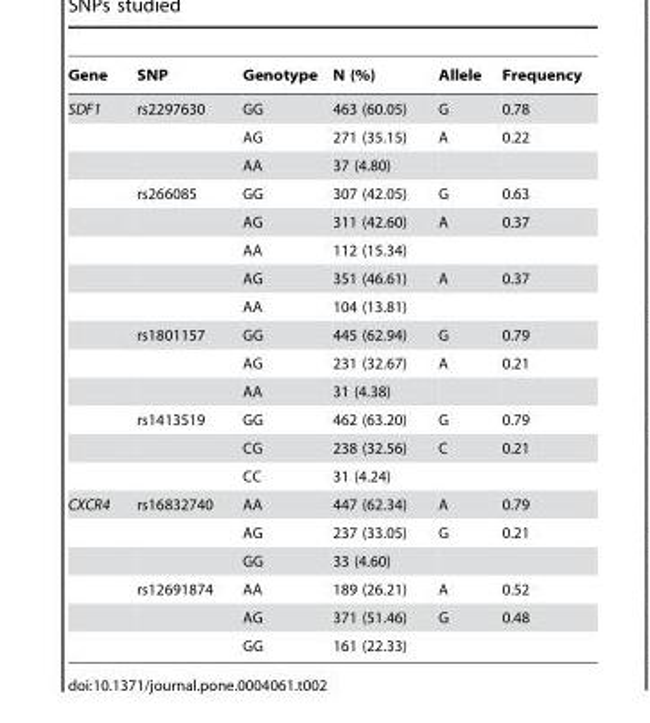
<table><thead><tr><td>Gene</td><td>SNP</td><td>Genotype</td><td>N (%)</td><td>Allele</td><td>Frequency</td></tr></thead><tbody><tr><td rowspan="14">SDF1</td><td>rs2297630</td><td>GG</td><td>463 (60.05)</td><td>G</td><td>0.78</td></tr><tr><td></td><td>AG</td><td>271 (35.15)</td><td>A</td><td>0.22</td></tr><tr><td></td><td>AA</td><td>37 (4.80)</td><td></td><td></td></tr><tr><td>rs266085</td><td>GG</td><td>307 (42.05)</td><td>G</td><td>0.63</td></tr><tr><td></td><td>AG</td><td>311 (42.60)</td><td>A</td><td>0.37</td></tr><tr><td></td><td>AA</td><td>112 (15.34)</td><td></td><td></td></tr><tr><td></td><td>AG</td><td>351 (46.61)</td><td>A</td><td>0.37</td></tr><tr><td></td><td>AA</td><td>104 (13.81)</td><td></td><td></td></tr><tr><td>rs1801157</td><td>GG</td><td>445 (62.94)</td><td>G</td><td>0.79</td></tr><tr><td></td><td>AG</td><td>231 (32.67)</td><td>A</td><td>0.21</td></tr><tr><td></td><td>AA</td><td>31 (4.38)</td><td></td><td></td></tr><tr><td>rs1413519</td><td>GG</td><td>462 (63.20)</td><td>G</td><td>0.79</td></tr><tr><td></td><td>CG</td><td>238 (32.56)</td><td>C</td><td>0.21</td></tr><tr><td></td><td>CC</td><td>31 (4.24)</td><td></td><td></td></tr><tr><td rowspan="6">CXCR4</td><td>rs16832740</td><td>AA</td><td>447 (62.34)</td><td>A</td><td>0.79</td></tr><tr><td></td><td>AG</td><td>237 (33.05)</td><td>G</td><td>0.21</td></tr><tr><td></td><td>GG</td><td>33 (4.60)</td><td></td><td></td></tr><tr><td>rs12691874</td><td>AA</td><td>189 (26.21)</td><td>A</td><td>0.52</td></tr><tr><td></td><td>AG</td><td>371 (51.46)</td><td>G</td><td>0.48</td></tr><tr><td></td><td>GG</td><td>161 (22.33)</td><td></td><td></td></tr></tbody></table>